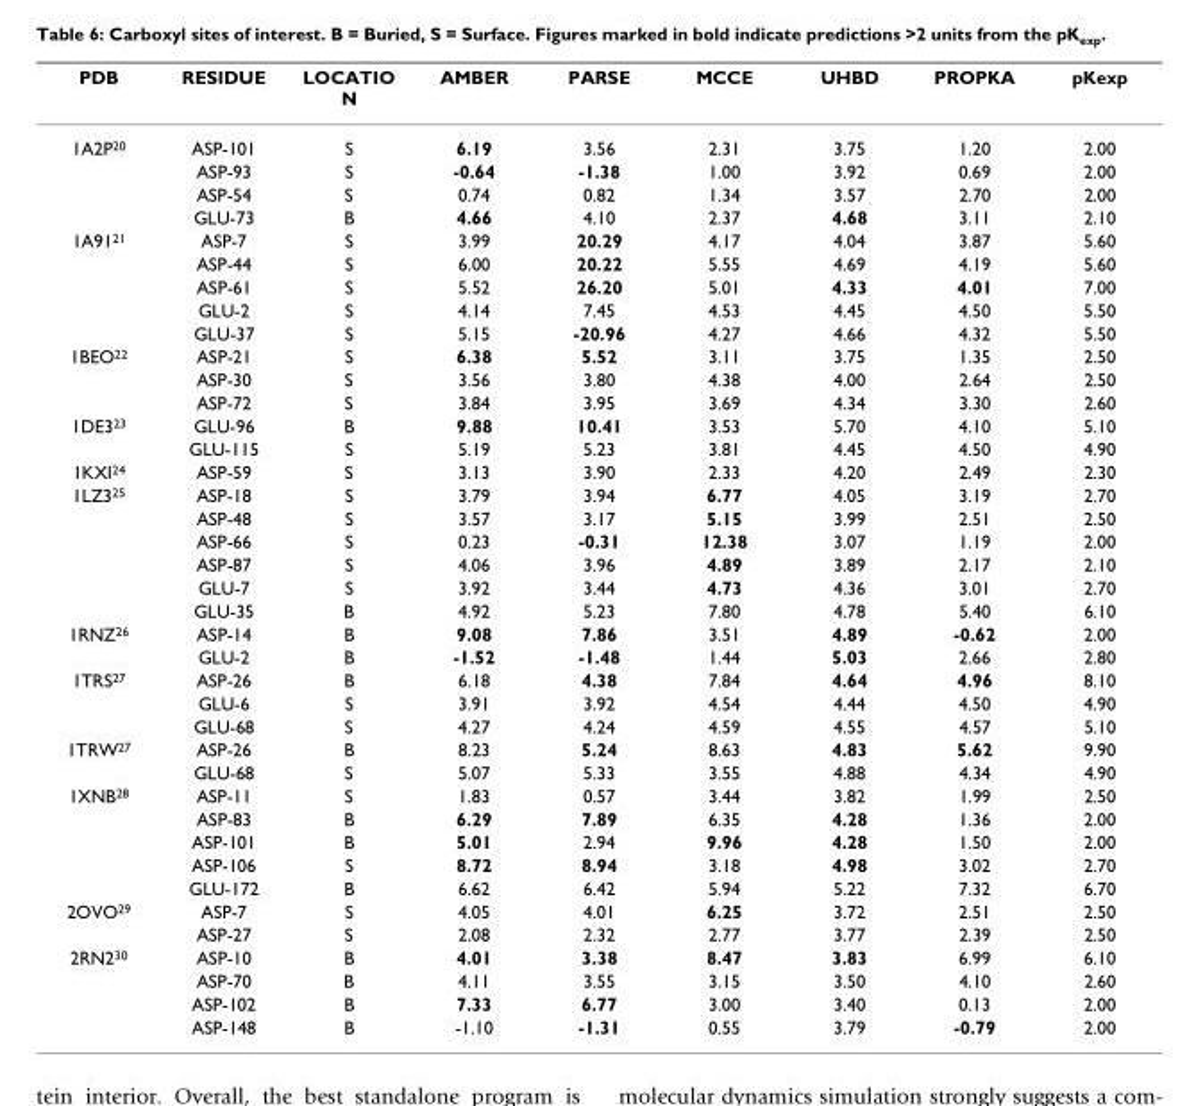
<table><thead><tr><td>PDB</td><td>RESIDUE</td><td>LOCATIO N</td><td>AMBER</td><td>PARSE</td><td>MCCE</td><td>UHBD</td><td>PROPKA</td><td>pKexp</td></tr></thead><tbody><tr><td rowspan="4">1A2P<sup>20</sup></td><td>ASP-101</td><td>S</td><td>6.19</td><td>3.56</td><td>2.31</td><td>3.75</td><td>1.20</td><td>2.00</td></tr><tr><td>ASP-93</td><td>S</td><td>-0.64</td><td>-1.38</td><td>1.00</td><td>3.92</td><td>0.69</td><td>2.00</td></tr><tr><td>ASP-54</td><td>S</td><td>0.74</td><td>0.82</td><td>1.34</td><td>3.57</td><td>2.70</td><td>2.00</td></tr><tr><td>GLU-73</td><td>B</td><td>4.66</td><td>4.10</td><td>2.37</td><td>4.68</td><td>3.11</td><td>2.10</td></tr><tr><td rowspan="5">1A91<sup>21</sup></td><td>ASP-7</td><td>S</td><td>3.99</td><td>20.29</td><td>4.17</td><td>4.04</td><td>3.87</td><td>5.60</td></tr><tr><td>ASP-44</td><td>S</td><td>6.00</td><td>20.22</td><td>5.55</td><td>4.69</td><td>4.19</td><td>5.60</td></tr><tr><td>ASP-61</td><td>S</td><td>5.52</td><td>26.20</td><td>5.01</td><td>4.33</td><td>4.01</td><td>7.00</td></tr><tr><td>GLU-2</td><td>S</td><td>4.14</td><td>7.45</td><td>4.53</td><td>4.45</td><td>4.50</td><td>5.50</td></tr><tr><td>GLU-37</td><td>S</td><td>5.15</td><td>-20.96</td><td>4.27</td><td>4.66</td><td>4.32</td><td>5.50</td></tr><tr><td rowspan="3">1BEO<sup>22</sup></td><td>ASP-21</td><td>S</td><td>6.38</td><td>5.52</td><td>3.11</td><td>3.75</td><td>1.35</td><td>2.50</td></tr><tr><td>ASP-30</td><td>S</td><td>3.56</td><td>3.80</td><td>4.38</td><td>4.00</td><td>2.64</td><td>2.50</td></tr><tr><td>ASP-72</td><td>S</td><td>3.84</td><td>3.95</td><td>3.69</td><td>4.34</td><td>3.30</td><td>2.60</td></tr><tr><td rowspan="2">1DE3<sup>23</sup></td><td>GLU-96</td><td>B</td><td>9.88</td><td>10.41</td><td>3.53</td><td>5.70</td><td>4.10</td><td>5.10</td></tr><tr><td>GLU-115</td><td>S</td><td>5.19</td><td>5.23</td><td>3.81</td><td>4.45</td><td>4.50</td><td>4.90</td></tr><tr><td>1KXI<sup>24</sup></td><td>ASP-59</td><td>S</td><td>3.13</td><td>3.90</td><td>2.33</td><td>4.20</td><td>2.49</td><td>2.30</td></tr><tr><td rowspan="6">1LZ3<sup>25</sup></td><td>ASP-18</td><td>S</td><td>3.79</td><td>3.94</td><td>6.77</td><td>4.05</td><td>3.19</td><td>2.70</td></tr><tr><td>ASP-48</td><td>S</td><td>3.57</td><td>3.17</td><td>5.15</td><td>3.99</td><td>2.51</td><td>2.50</td></tr><tr><td>ASP-66</td><td>S</td><td>0.23</td><td>-0.31</td><td>12.38</td><td>3.07</td><td>1.19</td><td>2.00</td></tr><tr><td>ASP-87</td><td>S</td><td>4.06</td><td>3.96</td><td>4.89</td><td>3.89</td><td>2.17</td><td>2.10</td></tr><tr><td>GLU-7</td><td>S</td><td>3.92</td><td>3.44</td><td>4.73</td><td>4.36</td><td>3.01</td><td>2.70</td></tr><tr><td>GLU-35</td><td>B</td><td>4.92</td><td>5.23</td><td>7.80</td><td>4.78</td><td>5.40</td><td>6.10</td></tr><tr><td rowspan="2">1RNZ<sup>26</sup></td><td>ASP-14</td><td>B</td><td>9.08</td><td>7.86</td><td>3.51</td><td>4.89</td><td>-0.62</td><td>2.00</td></tr><tr><td>GLU-2</td><td>B</td><td>-1.52</td><td>-1.48</td><td>1.44</td><td>5.03</td><td>2.66</td><td>2.80</td></tr><tr><td rowspan="3">1TRS<sup>27</sup></td><td>ASP-26</td><td>B</td><td>6.18</td><td>4.38</td><td>7.84</td><td>4.64</td><td>4.96</td><td>8.10</td></tr><tr><td>GLU-6</td><td>S</td><td>3.91</td><td>3.92</td><td>4.54</td><td>4.44</td><td>4.50</td><td>4.90</td></tr><tr><td>GLU-68</td><td>S</td><td>4.27</td><td>4.24</td><td>4.59</td><td>4.55</td><td>4.57</td><td>5.10</td></tr><tr><td rowspan="2">1TRW<sup>27</sup></td><td>ASP-26</td><td>B</td><td>8.23</td><td>5.24</td><td>8.63</td><td>4.83</td><td>5.62</td><td>9.90</td></tr><tr><td>GLU-68</td><td>S</td><td>5.07</td><td>5.33</td><td>3.55</td><td>4.88</td><td>4.34</td><td>4.90</td></tr><tr><td rowspan="5">1XNB<sup>28</sup></td><td>ASP-11</td><td>S</td><td>1.83</td><td>0.57</td><td>3.44</td><td>3.82</td><td>1.99</td><td>2.50</td></tr><tr><td>ASP-83</td><td>B</td><td>6.29</td><td>7.89</td><td>6.35</td><td>4.28</td><td>1.36</td><td>2.00</td></tr><tr><td>ASP-101</td><td>B</td><td>5.01</td><td>2.94</td><td>9.96</td><td>4.28</td><td>1.50</td><td>2.00</td></tr><tr><td>ASP-106</td><td>S</td><td>8.72</td><td>8.94</td><td>3.18</td><td>4.98</td><td>3.02</td><td>2.70</td></tr><tr><td>GLU-172</td><td>B</td><td>6.62</td><td>6.42</td><td>5.94</td><td>5.22</td><td>7.32</td><td>6.70</td></tr><tr><td rowspan="2">2OVO<sup>29</sup></td><td>ASP-7</td><td>S</td><td>4.05</td><td>4.01</td><td>6.25</td><td>3.72</td><td>2.51</td><td>2.50</td></tr><tr><td>ASP-27</td><td>S</td><td>2.08</td><td>2.32</td><td>2.77</td><td>3.77</td><td>2.39</td><td>2.50</td></tr><tr><td rowspan="4">2RN2<sup>30</sup></td><td>ASP-10</td><td>B</td><td>4.01</td><td>3.38</td><td>8.47</td><td>3.83</td><td>6.99</td><td>6.10</td></tr><tr><td>ASP-70</td><td>B</td><td>4.11</td><td>3.55</td><td>3.15</td><td>3.50</td><td>4.10</td><td>2.60</td></tr><tr><td>ASP-102</td><td>B</td><td>7.33</td><td>6.77</td><td>3.00</td><td>3.40</td><td>0.13</td><td>2.00</td></tr><tr><td>ASP-148</td><td>B</td><td>-1.10</td><td>-1.31</td><td>0.55</td><td>3.79</td><td>-0.79</td><td>2.00</td></tr></tbody></table>